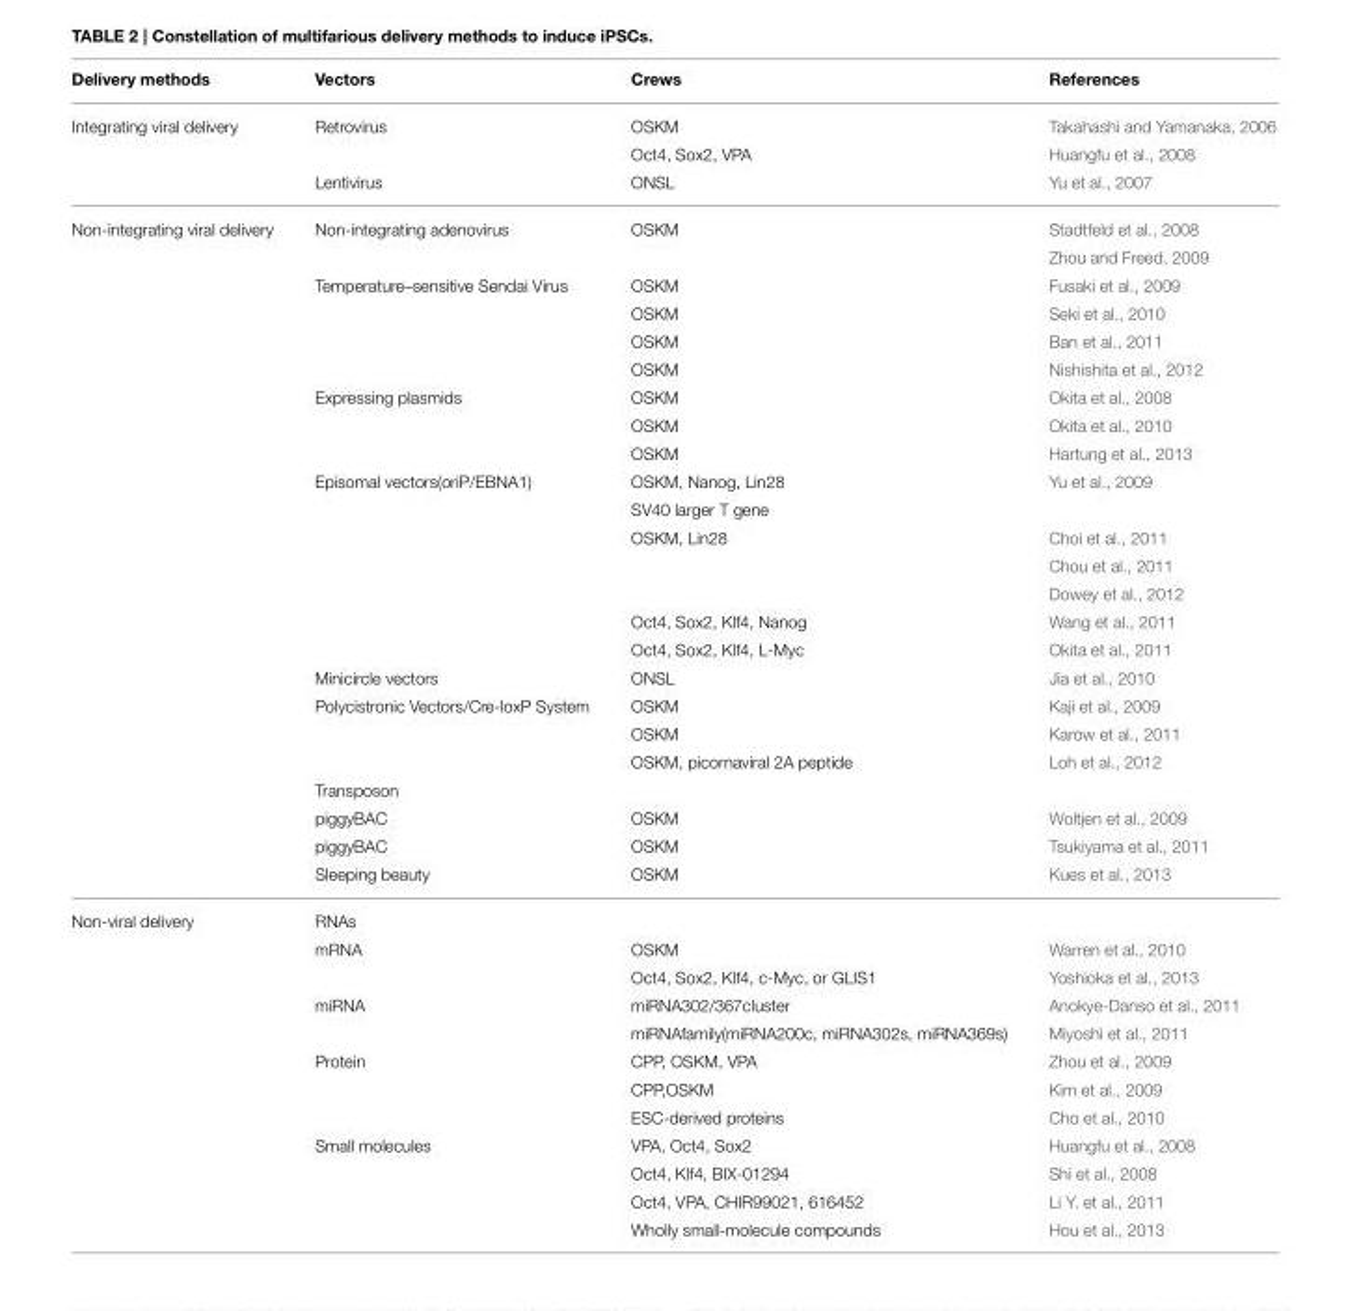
<table><thead><tr><td>Delivery methods</td><td>Vectors</td><td>Crews</td><td>References</td></tr></thead><tbody><tr><td rowspan="3">Integrating viral delivery</td><td>Retrovirus</td><td>OSKM</td><td>Takahashi and Yamanaka, 2006</td></tr><tr><td></td><td>Oct4, Sox2, VPA</td><td>Huangfu et al., 2008</td></tr><tr><td>Lentivirus</td><td>ONSL</td><td>Yu et al., 2007</td></tr><tr><td rowspan="24">Non-integrating viral delivery</td><td>Non-integrating adenovirus</td><td>OSKM</td><td>Stadtfeld et al., 2008</td></tr><tr><td></td><td></td><td>Zhou and Freed, 2009</td></tr><tr><td>Temperature–sensitive Sendai Virus</td><td>OSKM</td><td>Fusaki et al., 2009</td></tr><tr><td></td><td>OSKM</td><td>Seki et al., 2010</td></tr><tr><td></td><td>OSKM</td><td>Ban et al., 2011</td></tr><tr><td></td><td>OSKM</td><td>Nishishita et al., 2012</td></tr><tr><td>Expressing plasmids</td><td>OSKM</td><td>Okita et al., 2008</td></tr><tr><td></td><td>OSKM</td><td>Okita et al., 2010</td></tr><tr><td></td><td>OSKM</td><td>Hartung et al., 2013</td></tr><tr><td>Episomal vectors(oriP/EBNA1)</td><td>OSKM, Nanog, Lin28</td><td>Yu et al., 2009</td></tr><tr><td></td><td>SV40 larger T gene</td><td></td></tr><tr><td></td><td>OSKM, Lin28</td><td>Choi et al., 2011</td></tr><tr><td></td><td></td><td>Chou et al., 2011</td></tr><tr><td></td><td></td><td>Dowey et al., 2012</td></tr><tr><td></td><td>Oct4, Sox2, Klf4, Nanog</td><td>Wang et al., 2011</td></tr><tr><td></td><td>Oct4, Sox2, Klf4, L-Myc</td><td>Okita et al., 2011</td></tr><tr><td>Minicircle vectors</td><td>ONSL</td><td>Jia et al., 2010</td></tr><tr><td>Polycistronic Vectors/Cre-loxP System</td><td>OSKM</td><td>Kaji et al., 2009</td></tr><tr><td></td><td>OSKM</td><td>Karow et al., 2011</td></tr><tr><td></td><td>OSKM, picornaviral 2A peptide</td><td>Loh et al., 2012</td></tr><tr><td>Transposon</td><td></td><td></td></tr><tr><td>piggyBAC</td><td>OSKM</td><td>Woltjen et al., 2009</td></tr><tr><td>piggyBAC</td><td>OSKM</td><td>Tsukiyama et al., 2011</td></tr><tr><td>Sleeping beauty</td><td>OSKM</td><td>Kues et al., 2013</td></tr><tr><td rowspan="12">Non-viral delivery</td><td>RNAs</td><td></td><td></td></tr><tr><td>mRNA</td><td>OSKM</td><td>Warren et al., 2010</td></tr><tr><td></td><td>Oct4, Sox2, Klf4, c-Myc, or GLIS1</td><td>Yoshioka et al., 2013</td></tr><tr><td>miRNA</td><td>miRNA302/367cluster</td><td>Anokye-Danso et al., 2011</td></tr><tr><td></td><td>miRNAfamily(miRNA200c, miRNA302s, miRNA369s)</td><td>Miyoshi et al., 2011</td></tr><tr><td>Protein</td><td>CPP, OSKM, VPA</td><td>Zhou et al., 2009</td></tr><tr><td></td><td>CPP,OSKM</td><td>Kim et al., 2009</td></tr><tr><td></td><td>ESC-derived proteins</td><td>Cho et al., 2010</td></tr><tr><td>Small molecules</td><td>VPA, Oct4, Sox2</td><td>Huangfu et al., 2008</td></tr><tr><td></td><td>Oct4, Klf4, BIX-01294</td><td>Shi et al., 2008</td></tr><tr><td></td><td>Oct4, VPA, CHIR99021, 616452</td><td>Li Y. et al., 2011</td></tr><tr><td></td><td>Wholly small-molecule compounds</td><td>Hou et al., 2013</td></tr></tbody></table>